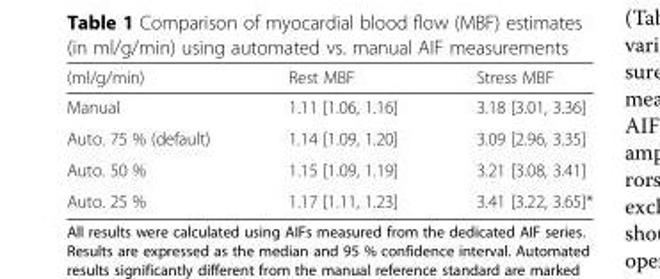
<table><thead><tr><td>(ml/g/min)</td><td>Rest MBF</td><td>Stress MBF</td></tr></thead><tbody><tr><td>Manual</td><td>1.11 [1.06, 1.16]</td><td>3.18 [3.01, 3.36]</td></tr><tr><td>Auto. 75 % (default)</td><td>1.14 [1.09, 1.20]</td><td>3.09 [2.96, 3.35]</td></tr><tr><td>Auto. 50 %</td><td>1.15 [1.09, 1.19]</td><td>3.21 [3.08, 3.41]</td></tr><tr><td>Auto. 25 %</td><td>1.17 [1.11, 1.23]</td><td>3.41 [3.22, 3.65]*</td></tr></tbody></table>